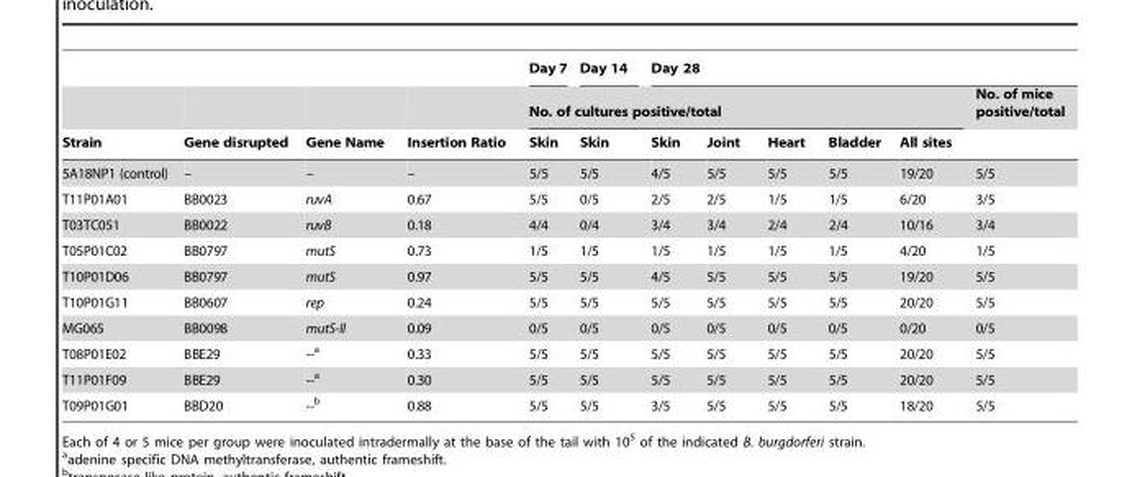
<table><thead><tr><td rowspan="3">Strain</td><td rowspan="3">Gene disrupted</td><td rowspan="3">Gene Name</td><td rowspan="3">Insertion Ratio</td><td>Day 7</td><td>Day 14</td><td colspan="6">Day 28</td></tr><tr><td colspan="7">No. of cultures positive/total</td><td rowspan="2">No. of mice positive/total</td></tr><tr><td>Skin</td><td>Skin</td><td>Skin</td><td>Joint</td><td>Heart</td><td>Bladder</td><td>All sites</td></tr></thead><tbody><tr><td>5A18NP1 (control)</td><td>–</td><td>–</td><td>–</td><td>5/5</td><td>5/5</td><td>4/5</td><td>5/5</td><td>5/5</td><td>5/5</td><td>19/20</td><td>5/5</td></tr><tr><td>T11P01A01</td><td>BB0023</td><td>ruvA</td><td>0.67</td><td>5/5</td><td>0/5</td><td>2/5</td><td>2/5</td><td>1/5</td><td>1/5</td><td>6/20</td><td>3/5</td></tr><tr><td>T03TC051</td><td>BB0022</td><td>ruvB</td><td>0.18</td><td>4/4</td><td>0/4</td><td>3/4</td><td>3/4</td><td>2/4</td><td>2/4</td><td>10/16</td><td>3/4</td></tr><tr><td>T05P01C02</td><td>BB0797</td><td>mutS</td><td>0.73</td><td>1/5</td><td>1/5</td><td>1/5</td><td>1/5</td><td>1/5</td><td>1/5</td><td>4/20</td><td>1/5</td></tr><tr><td>T10P01D06</td><td>BB0797</td><td>mutS</td><td>0.97</td><td>5/5</td><td>5/5</td><td>4/5</td><td>5/5</td><td>5/5</td><td>5/5</td><td>19/20</td><td>5/5</td></tr><tr><td>T10P01G11</td><td>BB0607</td><td>rep</td><td>0.24</td><td>5/5</td><td>5/5</td><td>5/5</td><td>5/5</td><td>5/5</td><td>5/5</td><td>20/20</td><td>5/5</td></tr><tr><td>MG065</td><td>BB0098</td><td>mutS-II</td><td>0.09</td><td>0/5</td><td>0/5</td><td>0/5</td><td>0/5</td><td>0/5</td><td>0/5</td><td>0/20</td><td>0/5</td></tr><tr><td>T08P01E02</td><td>BBE29</td><td>--a</td><td>0.33</td><td>5/5</td><td>5/5</td><td>5/5</td><td>5/5</td><td>5/5</td><td>5/5</td><td>20/20</td><td>5/5</td></tr><tr><td>T11P01F09</td><td>BBE29</td><td>--a</td><td>0.30</td><td>5/5</td><td>5/5</td><td>5/5</td><td>5/5</td><td>5/5</td><td>5/5</td><td>20/20</td><td>5/5</td></tr><tr><td>T09P01G01</td><td>BBD20</td><td>--b</td><td>0.88</td><td>5/5</td><td>5/5</td><td>3/5</td><td>5/5</td><td>5/5</td><td>5/5</td><td>18/20</td><td>5/5</td></tr></tbody></table>